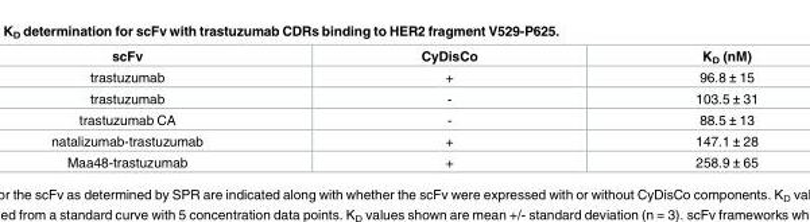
<table><thead><tr><td>scFv</td><td>CyDisCo</td><td>K<sub>D</sub> (nM)</td></tr></thead><tbody><tr><td>trastuzumab</td><td>+</td><td>96.8 ± 15</td></tr><tr><td>trastuzumab</td><td>-</td><td>103.5 ± 31</td></tr><tr><td>trastuzumab CA</td><td>-</td><td>88.5 ± 13</td></tr><tr><td>natalizumab-trastuzumab</td><td>+</td><td>147.1 ± 28</td></tr><tr><td>Maa48-trastuzumab</td><td>+</td><td>258.9 ± 65</td></tr></tbody></table>